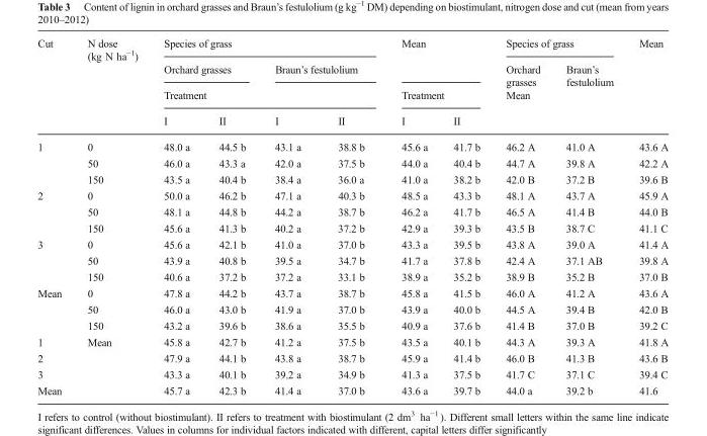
<table><thead><tr><td rowspan="4">Cut</td><td rowspan="4">N dose (kg N ha<sup>−1</sup>)</td><td colspan="4">Species of grass</td><td rowspan="3" colspan="2">Mean Treatment</td><td colspan="2">Species of grass</td><td rowspan="4">Mean</td></tr><tr><td colspan="2">Orchard grasses</td><td colspan="2">Braun’s festulolium</td><td>Orchard grasses</td><td>Braun’s festulolium</td></tr><tr><td colspan="4">Treatment</td><td rowspan="2" colspan="2">Mean</td></tr><tr><td>I</td><td>II</td><td>I</td><td>II</td><td>I</td><td>II</td></tr></thead><tbody><tr><td rowspan="3">1</td><td>0</td><td>48.0 a</td><td>44.5 b</td><td>43.1 a</td><td>38.8 b</td><td>45.6 a</td><td>41.7 b</td><td>46.2 A</td><td>41.0 A</td><td>43.6 A</td></tr><tr><td>50</td><td>46.0 a</td><td>43.3 a</td><td>42.0 a</td><td>37.5 b</td><td>44.0 a</td><td>40.4 b</td><td>44.7 A</td><td>39.8 A</td><td>42.2 A</td></tr><tr><td>150</td><td>43.5 a</td><td>40.4 b</td><td>38.4 a</td><td>36.0 a</td><td>41.0 a</td><td>38.2 b</td><td>42.0 B</td><td>37.2 B</td><td>39.6 B</td></tr><tr><td rowspan="3">2</td><td>0</td><td>50.0 a</td><td>46.2 b</td><td>47.1 a</td><td>40.3 b</td><td>48.5 a</td><td>43.3 b</td><td>48.1 A</td><td>43.7 A</td><td>45.9 A</td></tr><tr><td>50</td><td>48.1 a</td><td>44.8 b</td><td>44.2 a</td><td>38.7 b</td><td>46.2 a</td><td>41.7 b</td><td>46.5 A</td><td>41.4 B</td><td>44.0 B</td></tr><tr><td>150</td><td>45.6 a</td><td>41.3 b</td><td>40.2 a</td><td>37.2 b</td><td>42.9 a</td><td>39.3 b</td><td>43.5 B</td><td>38.7 C</td><td>41.1 C</td></tr><tr><td rowspan="3">3</td><td>0</td><td>45.6 a</td><td>42.1 b</td><td>41.0 a</td><td>37.0 b</td><td>43.3 a</td><td>39.5 b</td><td>43.8 A</td><td>39.0 A</td><td>41.4 A</td></tr><tr><td>50</td><td>43.9 a</td><td>40.8 b</td><td>39.5 a</td><td>34.7 b</td><td>41.7 a</td><td>37.8 b</td><td>42.4 A</td><td>37.1 AB</td><td>39.8 A</td></tr><tr><td>150</td><td>40.6 a</td><td>37.2 b</td><td>37.2 a</td><td>33.1 b</td><td>38.9 a</td><td>35.2 b</td><td>38.9 B</td><td>35.2 B</td><td>37.0 B</td></tr><tr><td rowspan="3">Mean</td><td>0</td><td>47.8 a</td><td>44.2 b</td><td>43.7 a</td><td>38.7 b</td><td>45.8 a</td><td>41.5 b</td><td>46.0 A</td><td>41.2 A</td><td>43.6 A</td></tr><tr><td>50</td><td>46.0 a</td><td>43.0 b</td><td>41.9 a</td><td>37.0 b</td><td>43.9 a</td><td>40.0 b</td><td>44.5 A</td><td>39.4 B</td><td>42.0 B</td></tr><tr><td>150</td><td>43.2 a</td><td>39.6 b</td><td>38.6 a</td><td>35.5 b</td><td>40.9 a</td><td>37.6 b</td><td>41.4 B</td><td>37.0 B</td><td>39.2 C</td></tr><tr><td>1</td><td rowspan="3">Mean</td><td>45.8 a</td><td>42.7 b</td><td>41.2 a</td><td>37.5 b</td><td>43.5 a</td><td>40.1 b</td><td>44.3 A</td><td>39.3 A</td><td>41.8 A</td></tr><tr><td>2</td><td>47.9 a</td><td>44.1 b</td><td>43.8 a</td><td>38.7 b</td><td>45.9 a</td><td>41.4 b</td><td>46.0 B</td><td>41.3 B</td><td>43.6 B</td></tr><tr><td>3</td><td>43.3 a</td><td>40.1 b</td><td>39.2 a</td><td>34.9 b</td><td>41.3 a</td><td>37.5 b</td><td>41.7 C</td><td>37.1 C</td><td>39.4 C</td></tr><tr><td colspan="2">Mean</td><td>45.7 a</td><td>42.3 b</td><td>41.4 a</td><td>37.0 b</td><td>43.6 a</td><td>39.7 b</td><td>44.0 a</td><td>39.2 b</td><td>41.6</td></tr></tbody></table>